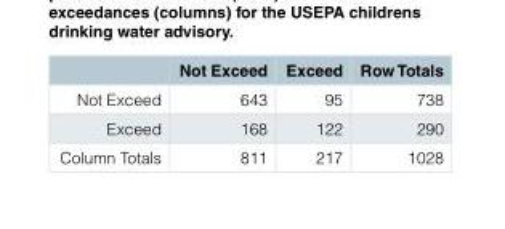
<table><thead><tr><td></td><td>Not Exceed</td><td>Exceed</td><td>Row Totals</td></tr></thead><tbody><tr><td>Not Exceed</td><td>643</td><td>95</td><td>738</td></tr><tr><td>Exceed</td><td>168</td><td>122</td><td>290</td></tr><tr><td>Column Totals</td><td>811</td><td>217</td><td>1028</td></tr></tbody></table>